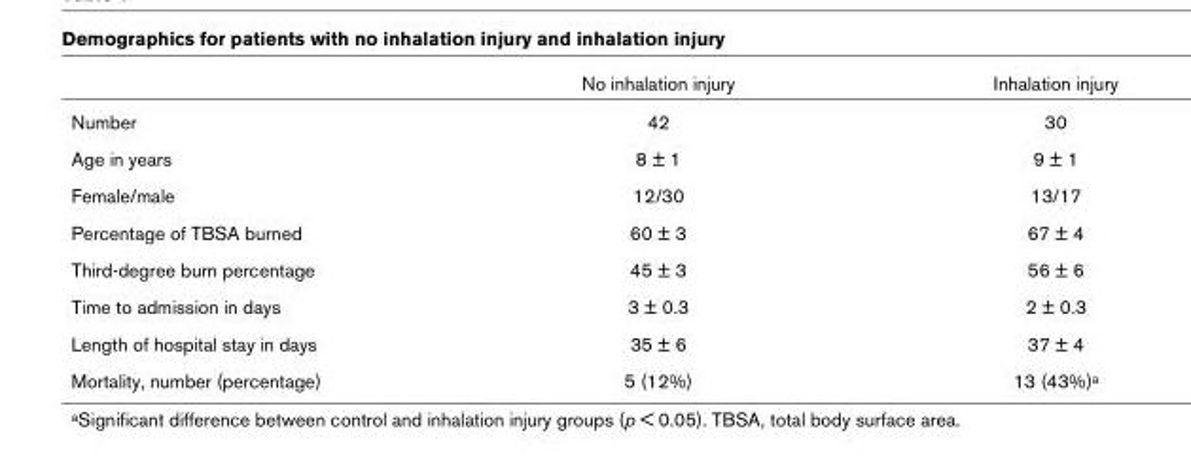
<table><thead><tr><td></td><td>No inhalation injury</td><td>Inhalation injury</td></tr></thead><tbody><tr><td>Number</td><td>42</td><td>30</td></tr><tr><td>Age in years</td><td>8 ± 1</td><td>9 ± 1</td></tr><tr><td>Female/male</td><td>12/30</td><td>13/17</td></tr><tr><td>Percentage of TBSA burned</td><td>60 ± 3</td><td>67 ± 4</td></tr><tr><td>Third-degree burn percentage</td><td>45 ± 3</td><td>56 ± 6</td></tr><tr><td>Time to admission in days</td><td>3 ± 0.3</td><td>2 ± 0.3</td></tr><tr><td>Length of hospital stay in days</td><td>35 ± 6</td><td>37 ± 4</td></tr><tr><td>Mortality, number (percentage)</td><td>5 (12%)</td><td>13 (43%)<sup>a</sup></td></tr></tbody></table>